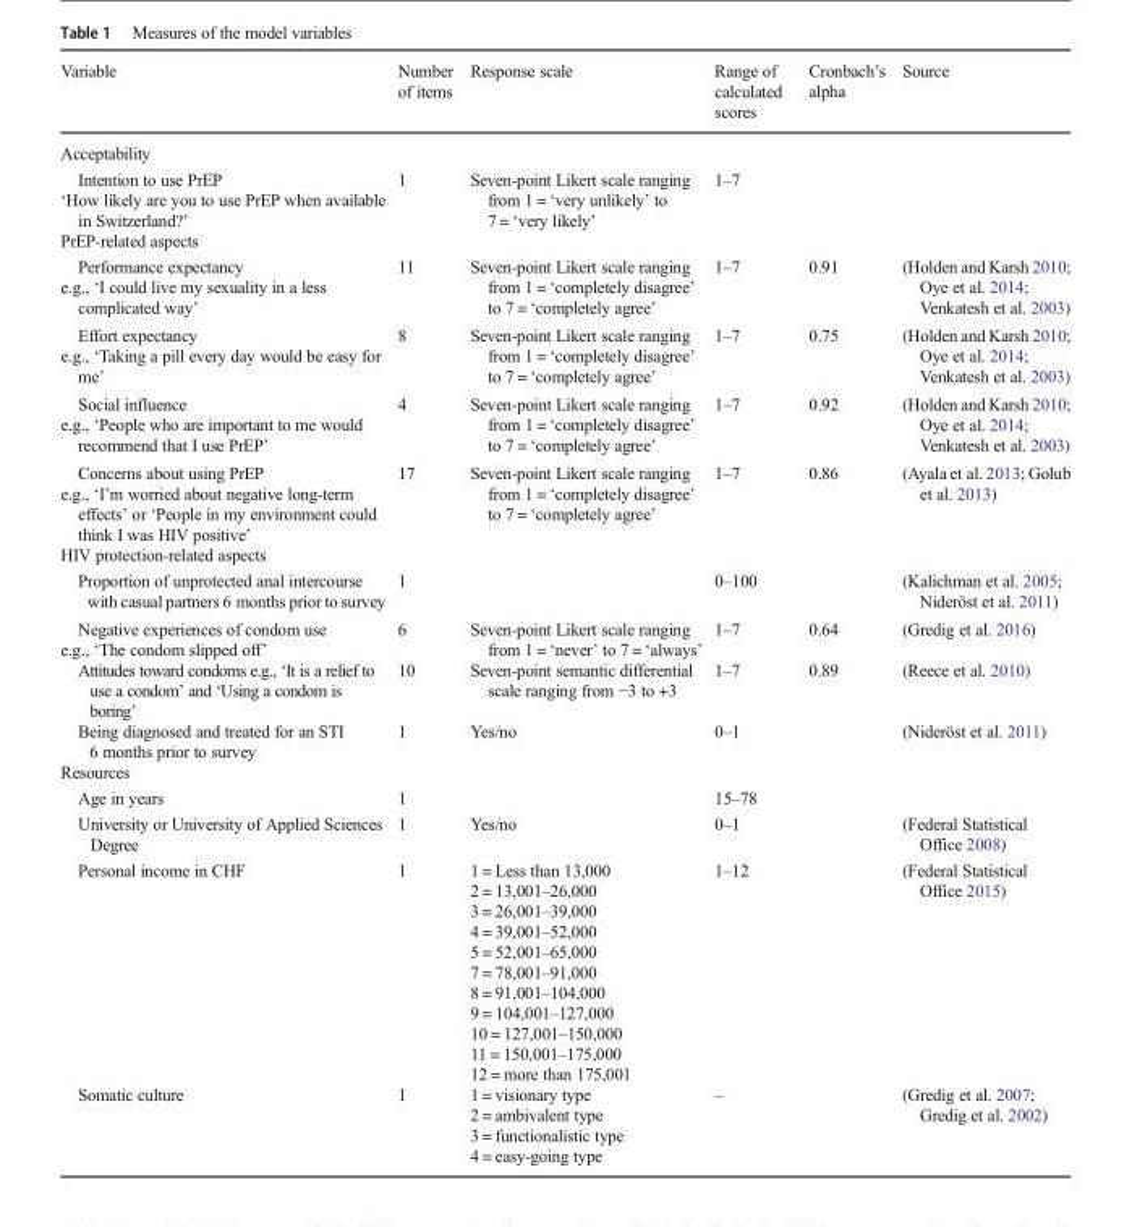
<table><thead><tr><td>Variable</td><td>Number of items</td><td>Response scale</td><td>Range of calculated scores</td><td>Cronbach’s alpha</td><td>Source</td></tr></thead><tbody><tr><td colspan="6">Acceptability</td></tr><tr><td>Intention to use PrEP ‘How likely are you to use PrEP when available in Switzerland?’</td><td>1</td><td>Seven-point Likert scale ranging from 1 = ‘very unlikely’ to 7 = ‘very likely’</td><td>1–7</td><td></td><td></td></tr><tr><td colspan="6">PrEP-related aspects</td></tr><tr><td>Performance expectancy e.g., ‘I could live my sexuality in a less complicated way’</td><td>11</td><td>Seven-point Likert scale ranging from 1 = ‘completely disagree’ to 7 = ‘completely agree’</td><td>1–7</td><td>0.91</td><td>(Holden and Karsh 2010; Oye et al. 2014; Venkatesh et al. 2003)</td></tr><tr><td>Effort expectancy e.g., ‘Taking a pill every day would be easy for me’</td><td>8</td><td>Seven-point Likert scale ranging from 1 = ‘completely disagree’ to 7 = ‘completely agree’</td><td>1–7</td><td>0.75</td><td>(Holden and Karsh 2010; Oye et al. 2014; Venkatesh et al. 2003)</td></tr><tr><td>Social influence e.g., ‘People who are important to me would recommend that I use PrEP’</td><td>4</td><td>Seven-point Likert scale ranging from 1 = ‘completely disagree’ to 7 = ‘completely agree’</td><td>1–7</td><td>0.92</td><td>(Holden and Karsh 2010; Oye et al. 2014; Venkatesh et al. 2003)</td></tr><tr><td>Concerns about using PrEP e.g., ‘I’m worried about negative long-term effects’ or ‘People in my environment could think I was HIV positive’</td><td>17</td><td>Seven-point Likert scale ranging from 1 = ‘completely disagree’ to 7 = ‘completely agree’</td><td>1–7</td><td>0.86</td><td>(Ayala et al. 2013; Golub et al. 2013)</td></tr><tr><td colspan="6">HIV protection-related aspects</td></tr><tr><td>Proportion of unprotected anal intercourse with casual partners 6 months prior to survey</td><td>1</td><td></td><td>0–100</td><td></td><td>(Kalichman et al. 2005; Nideröst et al. 2011)</td></tr><tr><td>Negative experiences of condom use e.g., ‘The condom slipped off’</td><td>6</td><td>Seven-point Likert scale ranging from 1 = ‘never’ to 7 = ‘always’</td><td>1–7</td><td>0.64</td><td>(Gredig et al. 2016)</td></tr><tr><td>Attitudes toward condoms e.g., ‘It is a relief to use a condom’ and ‘Using a condom is boring’</td><td>10</td><td>Seven-point semantic differential scale ranging from −3 to +3</td><td>1–7</td><td>0.89</td><td>(Reece et al. 2010)</td></tr><tr><td>Being diagnosed and treated for an STI 6 months prior to survey</td><td>1</td><td>Yes/no</td><td>0–1</td><td></td><td>(Nideröst et al. 2011)</td></tr><tr><td colspan="6">Resources</td></tr><tr><td>Age in years</td><td>1</td><td></td><td>15–78</td><td></td><td></td></tr><tr><td>University or University of Applied Sciences Degree</td><td>1</td><td>Yes/no</td><td>0–1</td><td></td><td>(Federal Statistical Office 2008)</td></tr><tr><td>Personal income in CHF</td><td>1</td><td>1 = Less than 13,000 2 = 13,001–26,000 3 = 26,001–39,000 4 = 39,001–52,000 5 = 52,001–65,000 7 = 78,001–91,000 8 = 91,001–104,000 9 = 104,001–127,000 10 = 127,001–150,000 11 = 150,001–175,000 12 = more than 175,001</td><td>1–12</td><td></td><td>(Federal Statistical Office 2015)</td></tr><tr><td>Somatic culture</td><td>1</td><td>1 = visionary type 2 = ambivalent type 3 = functionalistic type 4 = easy-going type</td><td>–</td><td></td><td>(Gredig et al. 2007; Gredig et al. 2002)</td></tr></tbody></table>